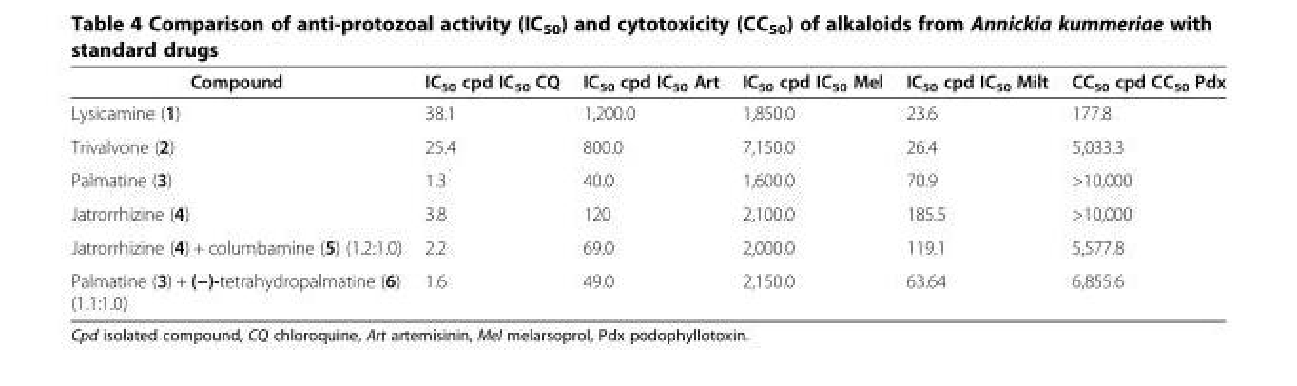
<table><thead><tr><td>Compound</td><td>IC<sub>50</sub> cpd IC<sub>50</sub> CQ</td><td>IC<sub>50</sub> cpd IC<sub>50</sub> Art</td><td>IC<sub>50</sub> cpd IC<sub>50</sub> Mel</td><td>IC<sub>50</sub> cpd IC<sub>50</sub> Milt</td><td>CC<sub>50</sub> cpd CC<sub>50</sub> Pdx</td></tr></thead><tbody><tr><td>Lysicamine (1)</td><td>38.1</td><td>1,200.0</td><td>1,850.0</td><td>23.6</td><td>177.8</td></tr><tr><td>Trivalvone (2)</td><td>25.4</td><td>800.0</td><td>7,150.0</td><td>26.4</td><td>5,033.3</td></tr><tr><td>Palmatine (3)</td><td>1.3</td><td>40.0</td><td>1,600.0</td><td>70.9</td><td>&gt;10,000</td></tr><tr><td>Jatrorrhizine (4)</td><td>3.8</td><td>120</td><td>2,100.0</td><td>185.5</td><td>&gt;10,000</td></tr><tr><td>Jatrorrhizine (4) + columbamine (5) (1.2:1.0)</td><td>2.2</td><td>69.0</td><td>2,000.0</td><td>119.1</td><td>5,577.8</td></tr><tr><td>Palmatine (3) + (−)-tetrahydropalmatine (6) (1.1:1.0)</td><td>1.6</td><td>49.0</td><td>2,150.0</td><td>63.64</td><td>6,855.6</td></tr></tbody></table>